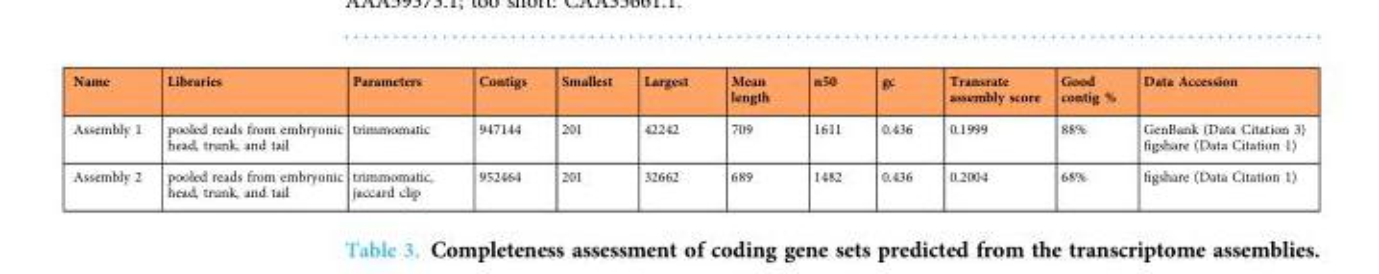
<table><thead><tr><td>Name</td><td>Libraries</td><td>Parameters</td><td>Contigs</td><td>Smallest</td><td>Largest</td><td>Mean length</td><td>n50</td><td>gc</td><td>Transrate assembly score</td><td>Good contig %</td><td>Data Accession</td></tr></thead><tbody><tr><td>Assembly 1</td><td>pooled reads from embryonic head, trunk, and tail</td><td>trimmomatic</td><td>947144</td><td>201</td><td>42242</td><td>709</td><td>1611</td><td>0.436</td><td>0.1999</td><td>88%</td><td>GenBank (Data Citation 3) figshare (Data Citation 1)</td></tr><tr><td>Assembly 2</td><td>pooled reads from embryonic head, trunk, and tail</td><td>trimmomatic, jaccard clip</td><td>952464</td><td>201</td><td>32662</td><td>689</td><td>1482</td><td>0.436</td><td>0.2004</td><td>68%</td><td>figshare (Data Citation 1)</td></tr></tbody></table>